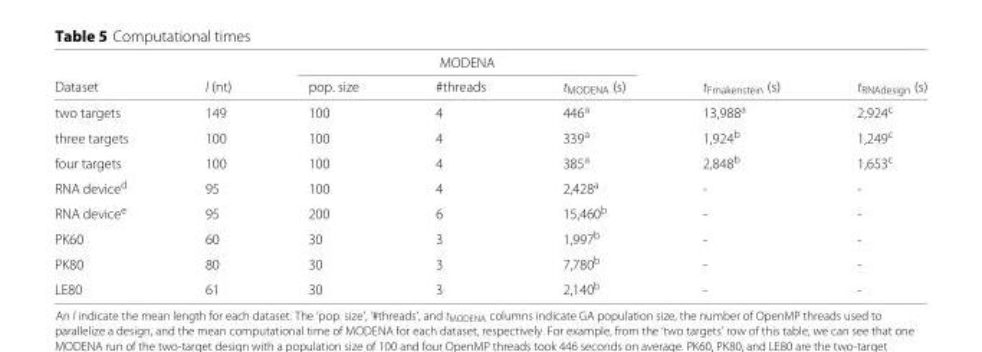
<table><thead><tr><td rowspan="2">Dataset</td><td rowspan="2">l (nt)</td><td colspan="3">MODENA</td><td rowspan="2">t<sub>Frnakenstein</sub> (s)</td><td rowspan="2">t<sub>RNAdesign</sub> (s)</td></tr><tr><td>pop. size</td><td>#threads</td><td>t<sub>MODENA</sub> (s)</td></tr></thead><tbody><tr><td>two targets</td><td>149</td><td>100</td><td>4</td><td>446<sup>a</sup></td><td>13,988<sup>a</sup></td><td>2,924<sup>c</sup></td></tr><tr><td>three targets</td><td>100</td><td>100</td><td>4</td><td>339<sup>a</sup></td><td>1,924<sup>b</sup></td><td>1,249<sup>c</sup></td></tr><tr><td>four targets</td><td>100</td><td>100</td><td>4</td><td>385<sup>a</sup></td><td>2,848<sup>b</sup></td><td>1,653<sup>c</sup></td></tr><tr><td>RNA device<sup>d</sup></td><td>95</td><td>100</td><td>4</td><td>2,428<sup>a</sup></td><td>-</td><td>-</td></tr><tr><td>RNA device<sup>e</sup></td><td>95</td><td>200</td><td>6</td><td>15,460<sup>b</sup></td><td>-</td><td>-</td></tr><tr><td>PK60</td><td>60</td><td>30</td><td>3</td><td>1,997<sup>b</sup></td><td>-</td><td>-</td></tr><tr><td>PK80</td><td>80</td><td>30</td><td>3</td><td>7,780<sup>b</sup></td><td>-</td><td>-</td></tr><tr><td>LE80</td><td>61</td><td>30</td><td>3</td><td>2,140<sup>b</sup></td><td>-</td><td>-</td></tr></tbody></table>